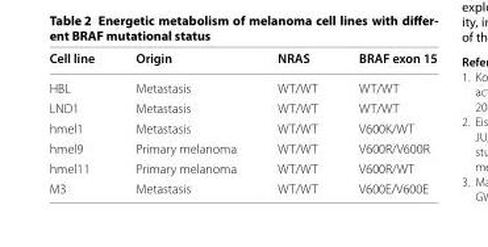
<table><thead><tr><td>Cell line</td><td>Origin</td><td>NRAS</td><td>BRAF exon 15</td></tr></thead><tbody><tr><td>HBL</td><td>Metastasis</td><td>WT/WT</td><td>WT/WT</td></tr><tr><td>LND1</td><td>Metastasis</td><td>WT/WT</td><td>WT/WT</td></tr><tr><td>hmel1</td><td>Metastasis</td><td>WT/WT</td><td>V600K/WT</td></tr><tr><td>hmel9</td><td>Primary melanoma</td><td>WT/WT</td><td>V600R/V600R</td></tr><tr><td>hmel11</td><td>Primary melanoma</td><td>WT/WT</td><td>V600R/WT</td></tr><tr><td>M3</td><td>Metastasis</td><td>WT/WT</td><td>V600E/V600E</td></tr></tbody></table>